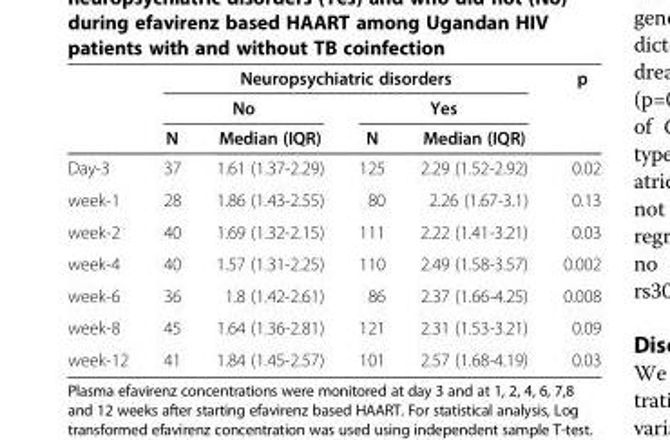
<table><thead><tr><td rowspan="3"></td><td rowspan="3">N</td><td colspan="3">Neuropsychiatric disorders</td><td rowspan="3">p</td></tr><tr><td rowspan="2">No Median (IQR)</td><td rowspan="2">N</td><td rowspan="2">Yes Median (IQR)</td></tr><tr></tr></thead><tbody><tr><td>Day-3</td><td>37</td><td>1.61 (1.37-2.29)</td><td>125</td><td>2.29 (1.52-2.92)</td><td>0.02</td></tr><tr><td>week-1</td><td>28</td><td>1.86 (1.43-2.55)</td><td>80</td><td>2.26 (1.67-3.1)</td><td>0.13</td></tr><tr><td>week-2</td><td>40</td><td>1.69 (1.32-2.15)</td><td>111</td><td>2.22 (1.41-3.21)</td><td>0.03</td></tr><tr><td>week-4</td><td>40</td><td>1.57 (1.31-2.25)</td><td>110</td><td>2.49 (1.58-3.57)</td><td>0.002</td></tr><tr><td>week-6</td><td>36</td><td>1.8 (1.42-2.61)</td><td>86</td><td>2.37 (1.66-4.25)</td><td>0.008</td></tr><tr><td>week-8</td><td>45</td><td>1.64 (1.36-2.81)</td><td>121</td><td>2.31 (1.53-3.21)</td><td>0.09</td></tr><tr><td>week-12</td><td>41</td><td>1.84 (1.45-2.57)</td><td>101</td><td>2.57 (1.68-4.19)</td><td>0.03</td></tr></tbody></table>